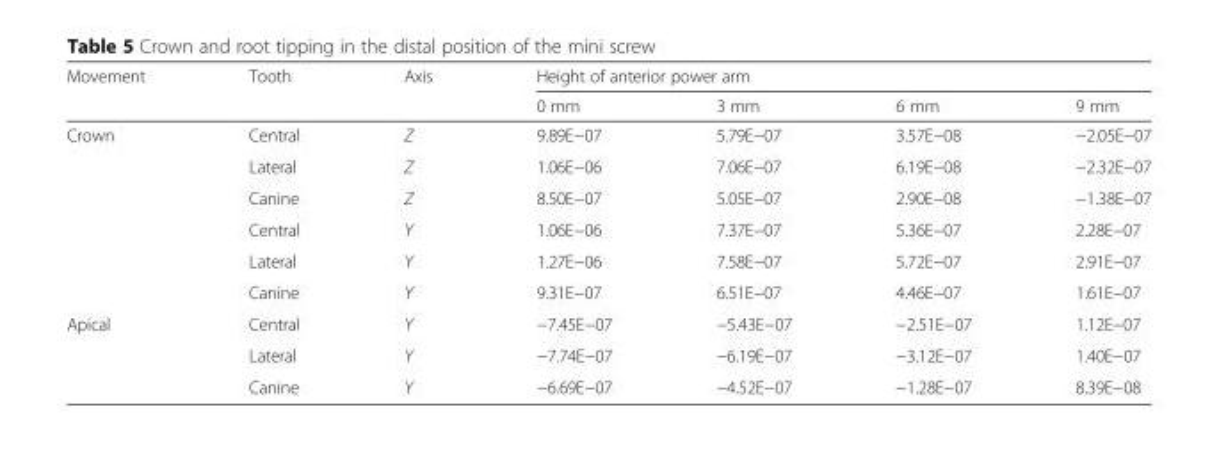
<table><thead><tr><td rowspan="2">Movement</td><td rowspan="2">Tooth</td><td rowspan="2">Axis</td><td colspan="4">Height of anterior power arm</td></tr><tr><td>0 mm</td><td>3 mm</td><td>6 mm</td><td>9 mm</td></tr></thead><tbody><tr><td rowspan="6">Crown</td><td>Central</td><td>Z</td><td>9.89E−07</td><td>5.79E−07</td><td>3.57E−08</td><td>−2.05E−07</td></tr><tr><td>Lateral</td><td>Z</td><td>1.06E−06</td><td>7.06E−07</td><td>6.19E−08</td><td>−2.32E−07</td></tr><tr><td>Canine</td><td>Z</td><td>8.50E−07</td><td>5.05E−07</td><td>2.90E−08</td><td>−1.38E−07</td></tr><tr><td>Central</td><td>Y</td><td>1.06E−06</td><td>7.37E−07</td><td>5.36E−07</td><td>2.28E−07</td></tr><tr><td>Lateral</td><td>Y</td><td>1.27E−06</td><td>7.58E−07</td><td>5.72E−07</td><td>2.91E−07</td></tr><tr><td>Canine</td><td>Y</td><td>9.31E−07</td><td>6.51E−07</td><td>4.46E−07</td><td>1.61E−07</td></tr><tr><td rowspan="3">Apical</td><td>Central</td><td>Y</td><td>−7.45E−07</td><td>−5.43E−07</td><td>−2.51E−07</td><td>1.12E−07</td></tr><tr><td>Lateral</td><td>Y</td><td>−7.74E−07</td><td>−6.19E−07</td><td>−3.12E−07</td><td>1.40E−07</td></tr><tr><td>Canine</td><td>Y</td><td>−6.69E−07</td><td>−4.52E−07</td><td>−1.28E−07</td><td>8.39E−08</td></tr></tbody></table>